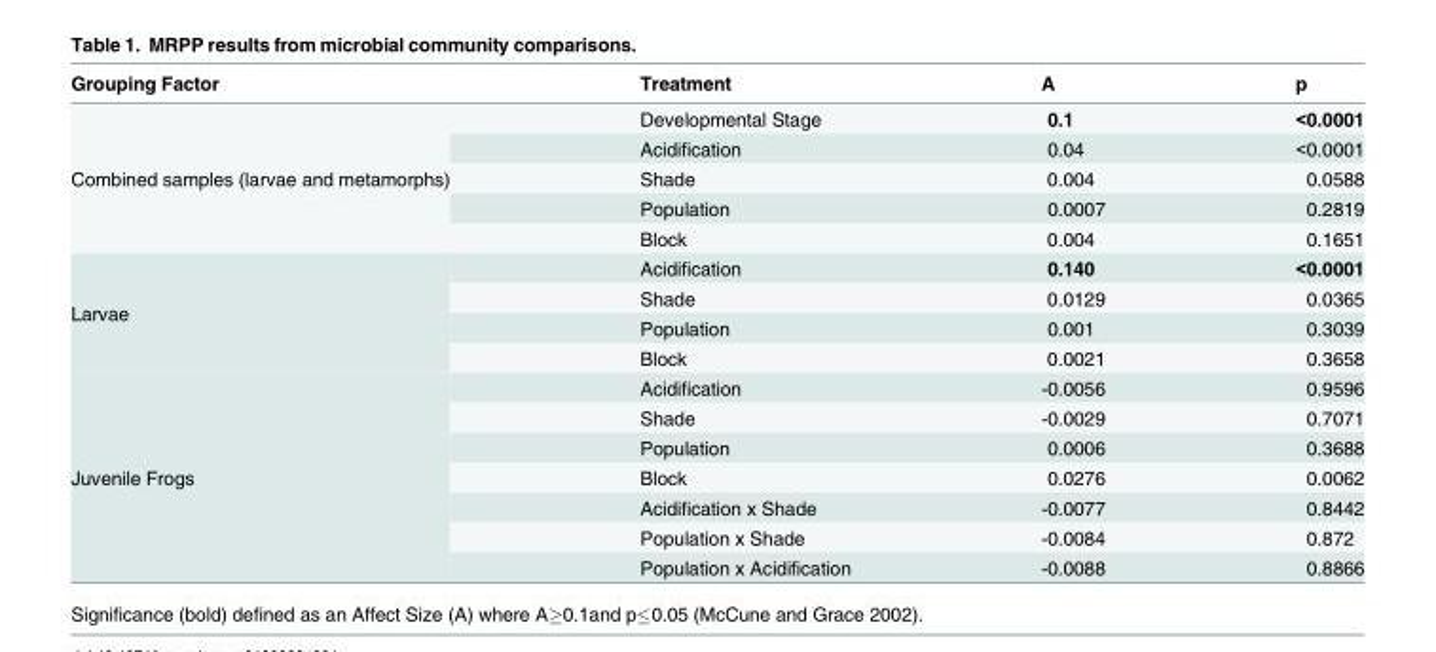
<table><thead><tr><td>Grouping Factor</td><td>Treatment</td><td>A</td><td>p</td></tr></thead><tbody><tr><td rowspan="5">Combined samples (larvae and metamorphs)</td><td>Developmental Stage</td><td>0.1</td><td>&lt;0.0001</td></tr><tr><td>Acidification</td><td>0.04</td><td>&lt;0.0001</td></tr><tr><td>Shade</td><td>0.004</td><td>0.0588</td></tr><tr><td>Population</td><td>0.0007</td><td>0.2819</td></tr><tr><td>Block</td><td>0.004</td><td>0.1651</td></tr><tr><td rowspan="4">Larvae</td><td>Acidification</td><td>0.140</td><td>&lt;0.0001</td></tr><tr><td>Shade</td><td>0.0129</td><td>0.0365</td></tr><tr><td>Population</td><td>0.001</td><td>0.3039</td></tr><tr><td>Block</td><td>0.0021</td><td>0.3658</td></tr><tr><td rowspan="7">Juvenile Frogs</td><td>Acidification</td><td>-0.0056</td><td>0.9596</td></tr><tr><td>Shade</td><td>-0.0029</td><td>0.7071</td></tr><tr><td>Population</td><td>0.0006</td><td>0.3688</td></tr><tr><td>Block</td><td>0.0276</td><td>0.0062</td></tr><tr><td>Acidification x Shade</td><td>-0.0077</td><td>0.8442</td></tr><tr><td>Population x Shade</td><td>-0.0084</td><td>0.872</td></tr><tr><td>Population x Acidification</td><td>-0.0088</td><td>0.8866</td></tr></tbody></table>